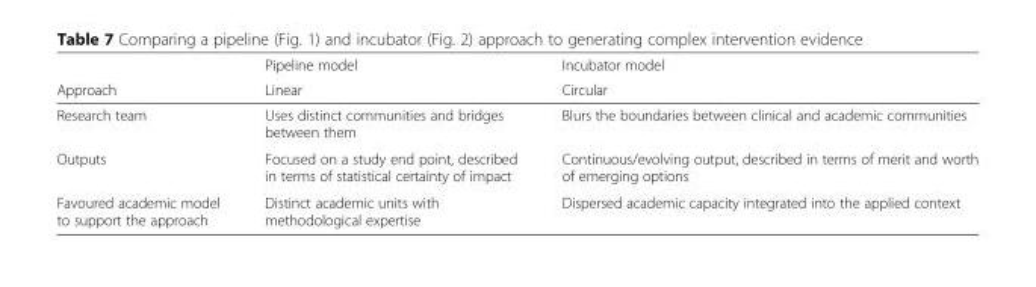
<table><thead><tr><td rowspan="2">Approach</td><td rowspan="2">Pipeline model Linear</td><td rowspan="2">Incubator model Circular</td></tr><tr></tr></thead><tbody><tr><td>Research team</td><td>Uses distinct communities and bridges between them</td><td>Blurs the boundaries between clinical and academic communities</td></tr><tr><td>Outputs</td><td>Focused on a study end point, described in terms of statistical certainty of impact</td><td>Continuous/evolving output, described in terms of merit and worth of emerging options</td></tr><tr><td>Favoured academic model to support the approach</td><td>Distinct academic units with methodological expertise</td><td>Dispersed academic capacity integrated into the applied context</td></tr></tbody></table>